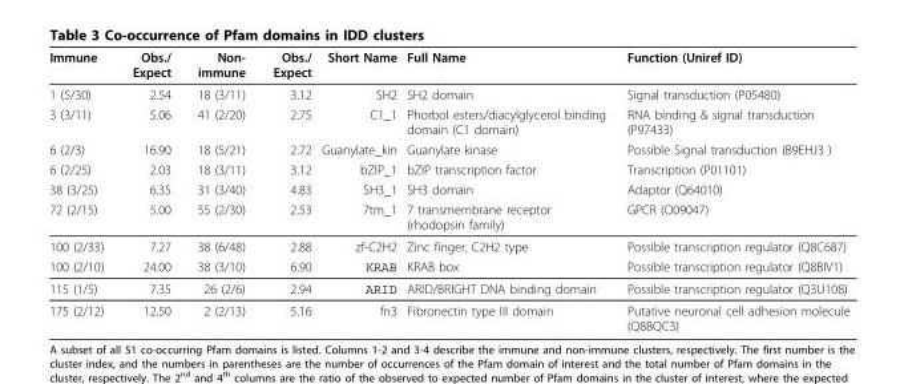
<table><thead><tr><td>Immune</td><td>Obs./ Expect</td><td>Non- immune</td><td>Obs./ Expect</td><td>Short Name</td><td>Full Name</td><td>Function (Uniref ID)</td></tr></thead><tbody><tr><td>1 (5/30)</td><td>2.54</td><td>18 (3/11)</td><td>3.12</td><td>SH2</td><td>SH2 domain</td><td>Signal transduction (P05480)</td></tr><tr><td>3 (3/11)</td><td>5.06</td><td>41 (2/20)</td><td>2.75</td><td>C1_1</td><td>Phorbol esters/diacylglycerol binding domain (C1 domain)</td><td>RNA binding &amp; signal transduction (P97433)</td></tr><tr><td>6 (2/3)</td><td>16.90</td><td>18 (5/21)</td><td>2.72</td><td>Guanylate_kin</td><td>Guanylate kinase</td><td>Possible Signal transduction (B9EHJ3 )</td></tr><tr><td>6 (2/25)</td><td>2.03</td><td>18 (3/11)</td><td>3.12</td><td>bZIP_1</td><td>bZIP transcription factor</td><td>Transcription (P01101)</td></tr><tr><td>38 (3/25)</td><td>6.35</td><td>31 (3/40)</td><td>4.83</td><td>SH3_1</td><td>SH3 domain</td><td>Adaptor (Q64010)</td></tr><tr><td>72 (2/15)</td><td>5.00</td><td>55 (2/30)</td><td>2.53</td><td>7tm_1</td><td>7 transmembrane receptor (rhodopsin family)</td><td>GPCR (O09047)</td></tr><tr><td>100 (2/33)</td><td>7.27</td><td>38 (6/48)</td><td>2.88</td><td>zf-C2H2</td><td>Zinc finger, C2H2 type</td><td>Possible transcription regulator (Q8C687)</td></tr><tr><td>100 (2/10)</td><td>24.00</td><td>38 (3/10)</td><td>6.90</td><td>KRAB</td><td>KRAB box</td><td>Possible transcription regulator (Q8BIV1)</td></tr><tr><td>115 (1/5)</td><td>7.35</td><td>26 (2/6)</td><td>2.94</td><td>ARID</td><td>ARID/BRIGHT DNA binding domain</td><td>Possible transcription regulator (Q3U108)</td></tr><tr><td>175 (2/12)</td><td>12.50</td><td>2 (2/13)</td><td>5.16</td><td>fn3</td><td>Fibronectin type III domain</td><td>Putative neuronal cell adhesion molecule (Q8BQC3)</td></tr></tbody></table>